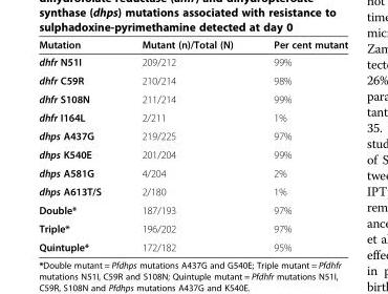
<table><thead><tr><td>Mutation</td><td>Mutant (n)/Total (N)</td><td>Per cent mutant</td></tr></thead><tbody><tr><td>dhfr N51I</td><td>209/212</td><td>99%</td></tr><tr><td>dhfr C59R</td><td>210/214</td><td>98%</td></tr><tr><td>dhfr S108N</td><td>211/214</td><td>99%</td></tr><tr><td>dhfr I164L</td><td>2/211</td><td>1%</td></tr><tr><td>dhps A437G</td><td>219/225</td><td>97%</td></tr><tr><td>dhps K540E</td><td>201/204</td><td>99%</td></tr><tr><td>dhps A581G</td><td>4/204</td><td>2%</td></tr><tr><td>dhps A613T/S</td><td>2/180</td><td>1%</td></tr><tr><td>Double*</td><td>187/193</td><td>97%</td></tr><tr><td>Triple*</td><td>196/202</td><td>97%</td></tr><tr><td>Quintuple*</td><td>172/182</td><td>95%</td></tr></tbody></table>